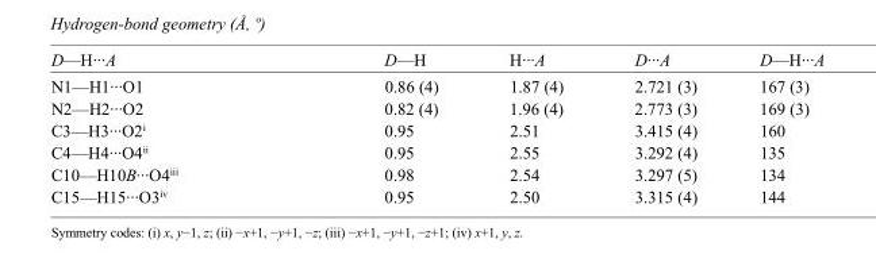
<table><tbody><tr><td>D—H···A</td><td>D—H</td><td>H···A</td><td>D···A</td><td>D—H···A</td></tr><tr><td>N1—H1···O1</td><td>0.86 (4)</td><td>1.87 (4)</td><td>2.721 (3)</td><td>167 (3)</td></tr><tr><td>N2—H2···O2</td><td>0.82 (4)</td><td>1.96 (4)</td><td>2.773 (3)</td><td>169 (3)</td></tr><tr><td>C3—H3···O2<sup>i</sup></td><td>0.95</td><td>2.51</td><td>3.415 (4)</td><td>160</td></tr><tr><td>C4—H4···O4<sup>ii</sup></td><td>0.95</td><td>2.55</td><td>3.292 (4)</td><td>135</td></tr><tr><td>C10—H10B···O4<sup>iii</sup></td><td>0.98</td><td>2.54</td><td>3.297 (5)</td><td>134</td></tr><tr><td>C15—H15···O3<sup>iv</sup></td><td>0.95</td><td>2.50</td><td>3.315 (4)</td><td>144</td></tr></tbody></table>